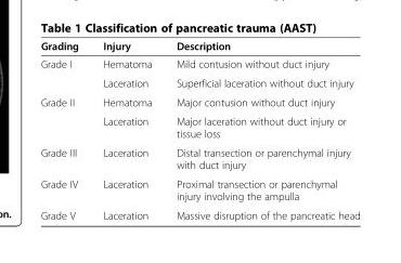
<table><thead><tr><td>Grading</td><td>Injury</td><td>Description</td></tr></thead><tbody><tr><td rowspan="2">Grade I</td><td>Hematoma</td><td>Mild contusion without duct injury</td></tr><tr><td>Laceration</td><td>Superficial laceration without duct injury</td></tr><tr><td rowspan="2">Grade II</td><td>Hematoma</td><td>Major contusion without duct injury</td></tr><tr><td>Laceration</td><td>Major laceration without duct injury or tissue loss</td></tr><tr><td>Grade III</td><td>Laceration</td><td>Distal transection or parenchymal injury with duct injury</td></tr><tr><td>Grade IV</td><td>Laceration</td><td>Proximal transection or parenchymal injury involving the ampulla</td></tr><tr><td>Grade V</td><td>Laceration</td><td>Massive disruption of the pancreatic head</td></tr></tbody></table>